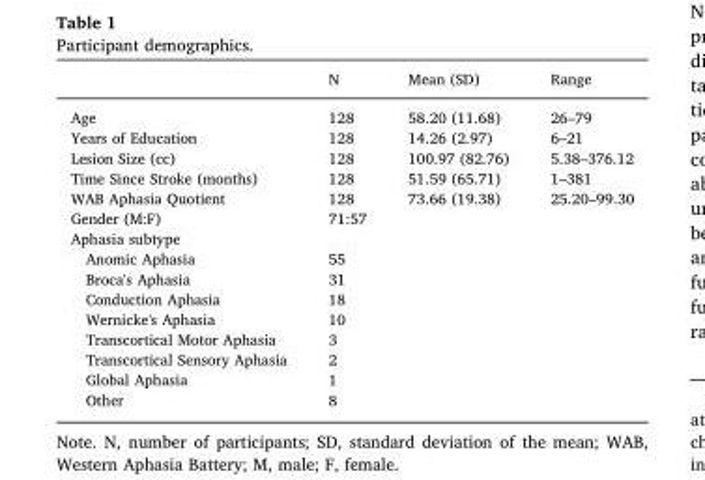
<table><thead><tr><td></td><td>N</td><td>Mean (SD)</td><td>Range</td></tr></thead><tbody><tr><td>Age</td><td>128</td><td>58.20 (11.68)</td><td>26–79</td></tr><tr><td>Years of Education</td><td>128</td><td>14.26 (2.97)</td><td>6–21</td></tr><tr><td>Lesion Size (cc)</td><td>128</td><td>100.97 (82.76)</td><td>5.38–376.12</td></tr><tr><td>Time Since Stroke (months)</td><td>128</td><td>51.59 (65.71)</td><td>1–381</td></tr><tr><td>WAB Aphasia Quotient</td><td>128</td><td>73.66 (19.38)</td><td>25.20–99.30</td></tr><tr><td>Gender (M:F)</td><td>71:57</td><td></td><td></td></tr><tr><td colspan="4">Aphasia subtype</td></tr><tr><td>Anomic Aphasia</td><td>55</td><td></td><td></td></tr><tr><td>Broca&#x27;s Aphasia</td><td>31</td><td></td><td></td></tr><tr><td>Conduction Aphasia</td><td>18</td><td></td><td></td></tr><tr><td>Wernicke&#x27;s Aphasia</td><td>10</td><td></td><td></td></tr><tr><td>Transcortical Motor Aphasia</td><td>3</td><td></td><td></td></tr><tr><td>Transcortical Sensory Aphasia</td><td>2</td><td></td><td></td></tr><tr><td>Global Aphasia</td><td>1</td><td></td><td></td></tr><tr><td>Other</td><td>8</td><td></td><td></td></tr></tbody></table>